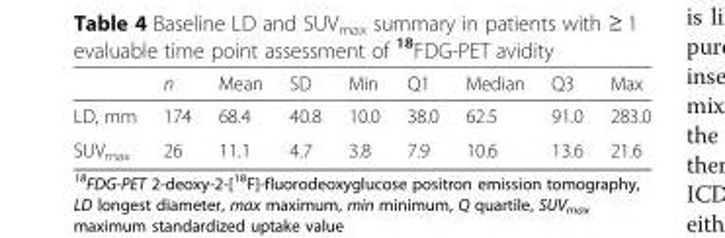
<table><thead><tr><td></td><td>n</td><td>Mean</td><td>SD</td><td>Min</td><td>Q1</td><td>Median</td><td>Q3</td><td>Max</td></tr></thead><tbody><tr><td>LD, mm</td><td>174</td><td>68.4</td><td>40.8</td><td>10.0</td><td>38.0</td><td>62.5</td><td>91.0</td><td>283.0</td></tr><tr><td>SUV<sub>max</sub></td><td>26</td><td>11.1</td><td>4.7</td><td>3.8</td><td>7.9</td><td>10.6</td><td>13.6</td><td>21.6</td></tr></tbody></table>